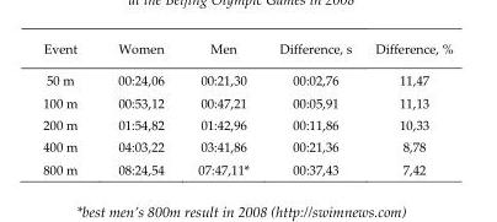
<table><thead><tr><td>Event</td><td>Women</td><td>Men</td><td>Difference, s</td><td>Difference, %</td></tr></thead><tbody><tr><td>50 m</td><td>00:24,06</td><td>00:21,30</td><td>00:02,76</td><td>11,47</td></tr><tr><td>100 m</td><td>00:53,12</td><td>00:47,21</td><td>00:05,91</td><td>11,13</td></tr><tr><td>200 m</td><td>01:54,82</td><td>01:42,96</td><td>00:11,86</td><td>10,33</td></tr><tr><td>400 m</td><td>04:03,22</td><td>03:41,86</td><td>00:21,36</td><td>8,78</td></tr><tr><td>800 m</td><td>08:24,54</td><td>07:47,11*</td><td>00:37,43</td><td>7,42</td></tr></tbody></table>